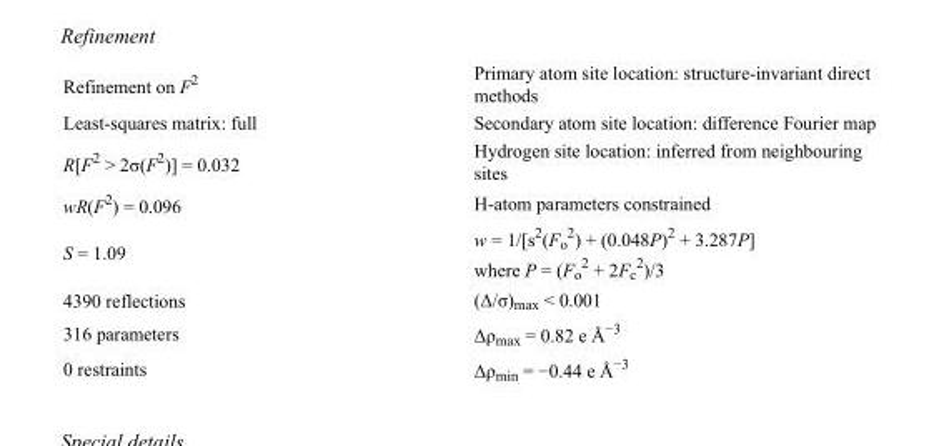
<table><tbody><tr><td>Refinement on F<sup>2</sup></td><td>Primary atom site location: structure-invariant direct methods</td></tr><tr><td>Least-squares matrix: full</td><td>Secondary atom site location: difference Fourier map</td></tr><tr><td>R[F<sup>2</sup> &gt; 2σ(F<sup>2</sup>)] = 0.032</td><td>Hydrogen site location: inferred from neighbouring sites</td></tr><tr><td>wR(F<sup>2</sup>) = 0.096</td><td>H-atom parameters constrained</td></tr><tr><td>S = 1.09</td><td>w = 1/[s<sup>2</sup>(F<sub>o</sub> <sup>2</sup>) + (0.048P)<sup>2</sup> + 3.287P] where P = (F<sub>o</sub> <sup>2</sup> + 2F<sub>c</sub> <sup>2</sup>)/3</td></tr><tr><td>4390 reflections</td><td>(Δ/σ)<sub>max</sub> &lt; 0.001</td></tr><tr><td>316 parameters</td><td>Δρ<sub>max</sub> = 0.82 e Å<sup>−3</sup></td></tr><tr><td>0 restraints</td><td>Δρ<sub>min</sub> = −0.44 e Å<sup>−3</sup></td></tr></tbody></table>